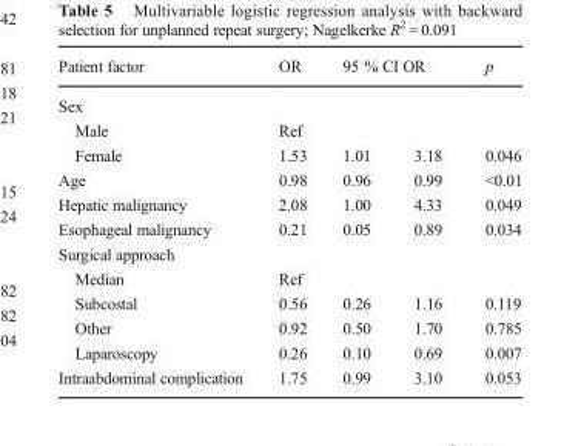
<table><thead><tr><td>Patient factor</td><td>OR</td><td colspan="2">95 % CI OR</td><td>p</td></tr><tr><td colspan="5">Sex</td></tr><tr><td>Male</td><td>Ref</td><td></td><td></td><td></td></tr></thead><tbody><tr><td>Female</td><td>1.53</td><td>1.01</td><td>3.18</td><td>0.046</td></tr><tr><td>Age</td><td>0.98</td><td>0.96</td><td>0.99</td><td>&lt;0.01</td></tr><tr><td>Hepatic malignancy</td><td>2.08</td><td>1.00</td><td>4.33</td><td>0.049</td></tr><tr><td>Esophageal malignancy</td><td>0.21</td><td>0.05</td><td>0.89</td><td>0.034</td></tr><tr><td colspan="5">Surgical approach</td></tr><tr><td>Median</td><td>Ref</td><td></td><td></td><td></td></tr><tr><td>Subcostal</td><td>0.56</td><td>0.26</td><td>1.16</td><td>0.119</td></tr><tr><td>Other</td><td>0.92</td><td>0.50</td><td>1.70</td><td>0.785</td></tr><tr><td>Laparoscopy</td><td>0.26</td><td>0.10</td><td>0.69</td><td>0.007</td></tr><tr><td>Intraabdominal complication</td><td>1.75</td><td>0.99</td><td>3.10</td><td>0.053</td></tr></tbody></table>